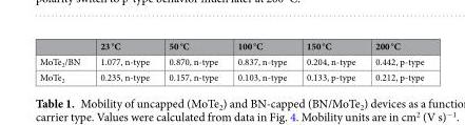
<table><thead><tr><td></td><td>23 °C</td><td>50 °C</td><td>100 °C</td><td>150 °C</td><td>200 °C</td></tr></thead><tbody><tr><td>MoTe<sub>2</sub>/BN</td><td>1.077, n-type</td><td>0.870, n-type</td><td>0.837, n-type</td><td>0.204, n-type</td><td>0.442, p-type</td></tr><tr><td>MoTe<sub>2</sub></td><td>0.235, n-type</td><td>0.157, n-type</td><td>0.103, n-type</td><td>0.133, p-type</td><td>0.212, p-type</td></tr></tbody></table>